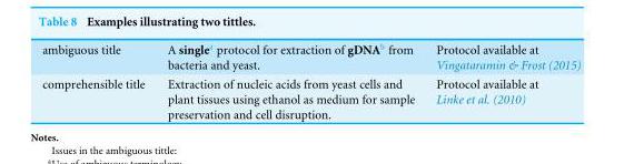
<table><tbody><tr><td>ambiguous title</td><td>A single<sup>a</sup> protocol for extraction of gDNA<sup>b</sup> from bacteria and yeast.</td><td>Protocol available at Vingataramin &amp; Frost (2015)</td></tr><tr><td>comprehensible title</td><td>Extraction of nucleic acids from yeast cells and plant tissues using ethanol as medium for sample preservation and cell disruption.</td><td>Protocol available at Linke et al. (2010)</td></tr></tbody></table>